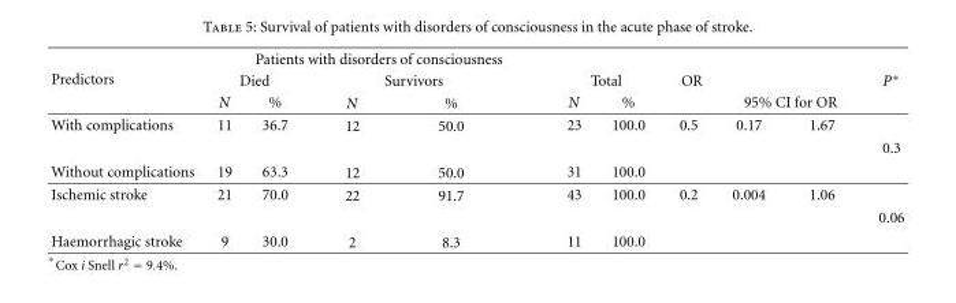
<table><thead><tr><td rowspan="3">Predictors</td><td colspan="4">Patients with disorders of consciousness</td><td></td><td></td><td rowspan="3">OR</td><td rowspan="2"></td><td rowspan="2"></td><td rowspan="3">P∗</td></tr><tr><td colspan="2">Died</td><td colspan="2">Survivors</td><td colspan="2">Total</td></tr><tr><td>N</td><td>%</td><td>N</td><td>%</td><td>N</td><td>%</td><td colspan="2">95% CI for OR</td></tr></thead><tbody><tr><td>With complications</td><td>11</td><td>36.7</td><td>12</td><td>50.0</td><td>23</td><td>100.0</td><td>0.5</td><td>0.17</td><td>1.67</td><td rowspan="2">0.3</td></tr><tr><td>Without complications</td><td>19</td><td>63.3</td><td>12</td><td>50.0</td><td>31</td><td>100.0</td><td></td><td></td><td></td></tr><tr><td>Ischemic stroke</td><td>21</td><td>70.0</td><td>22</td><td>91.7</td><td>43</td><td>100.0</td><td>0.2</td><td>0.004</td><td>1.06</td><td rowspan="2">0.06</td></tr><tr><td>Haemorrhagic stroke</td><td>9</td><td>30.0</td><td>2</td><td>8.3</td><td>11</td><td>100.0</td><td></td><td></td><td></td></tr></tbody></table>